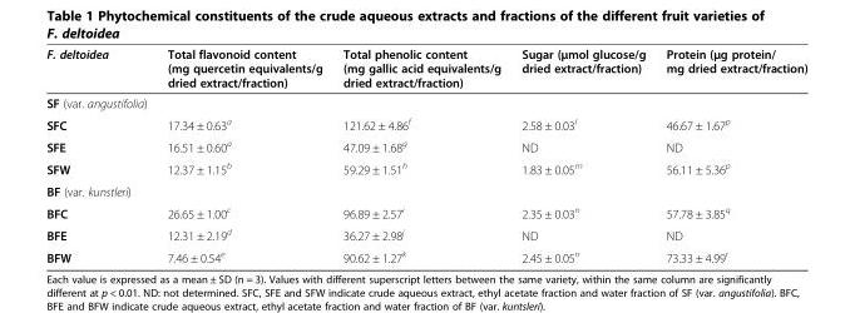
<table><thead><tr><td>F. deltoidea</td><td>Total flavonoid content (mg quercetin equivalents/g dried extract/fraction)</td><td>Total phenolic content (mg gallic acid equivalents/g dried extract/fraction)</td><td>Sugar (μmol glucose/g dried extract/fraction)</td><td>Protein (μg protein/ mg dried extract/fraction)</td></tr></thead><tbody><tr><td colspan="5">SF (var. angustifolia)</td></tr><tr><td>SFC</td><td>17.34 ± 0.63<sup>a</sup></td><td>121.62 ± 4.86<sup>f</sup></td><td>2.58 ± 0.03<sup>l</sup></td><td>46.67 ± 1.67<sup>p</sup></td></tr><tr><td>SFE</td><td>16.51 ± 0.60<sup>a</sup></td><td>47.09 ± 1.68<sup>g</sup></td><td>ND</td><td>ND</td></tr><tr><td>SFW</td><td>12.37 ± 1.15<sup>b</sup></td><td>59.29 ± 1.51<sup>h</sup></td><td>1.83 ± 0.05<sup>m</sup></td><td>56.11 ± 5.36<sup>p</sup></td></tr><tr><td colspan="5">BF (var. kunstleri)</td></tr><tr><td>BFC</td><td>26.65 ± 1.00<sup>c</sup></td><td>96.89 ± 2.57<sup>i</sup></td><td>2.35 ± 0.03<sup>n</sup></td><td>57.78 ± 3.85<sup>q</sup></td></tr><tr><td>BFE</td><td>12.31 ± 2.19<sup>d</sup></td><td>36.27 ± 2.98<sup>j</sup></td><td>ND</td><td>ND</td></tr><tr><td>BFW</td><td>7.46 ± 0.54<sup>e</sup></td><td>90.62 ± 1.27<sup>k</sup></td><td>2.45 ± 0.05<sup>n</sup></td><td>73.33 ± 4.99<sup>r</sup></td></tr></tbody></table>